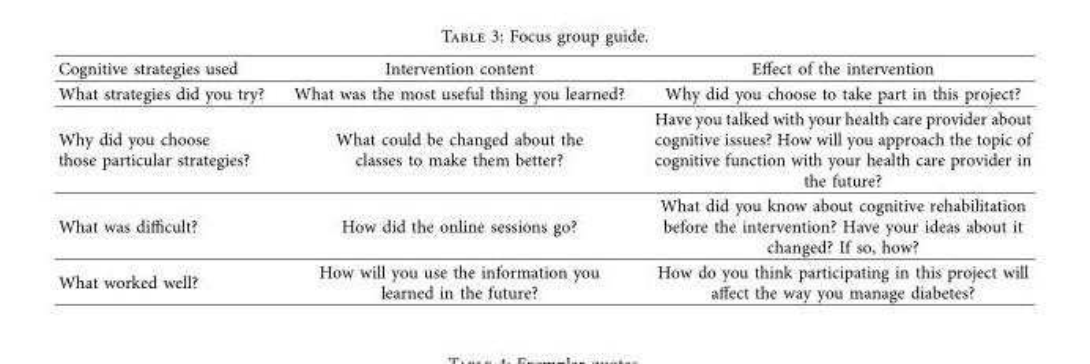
<table><thead><tr><td>Cognitive strategies used</td><td>Intervention content</td><td>Effect of the intervention</td></tr></thead><tbody><tr><td>What strategies did you try?</td><td>What was the most useful thing you learned?</td><td>Why did you choose to take part in this project?</td></tr><tr><td>Why did you choose those particular strategies?</td><td>What could be changed about the classes to make them better?</td><td>Have you talked with your health care provider about cognitive issues? How will you approach the topic of cognitive function with your health care provider in the future?</td></tr><tr><td>What was difficult?</td><td>How did the online sessions go?</td><td>What did you know about cognitive rehabilitation before the intervention? Have your ideas about it changed? If so, how?</td></tr><tr><td>What worked well?</td><td>How will you use the information you learned in the future?</td><td>How do you think participating in this project will affect the way you manage diabetes?</td></tr></tbody></table>